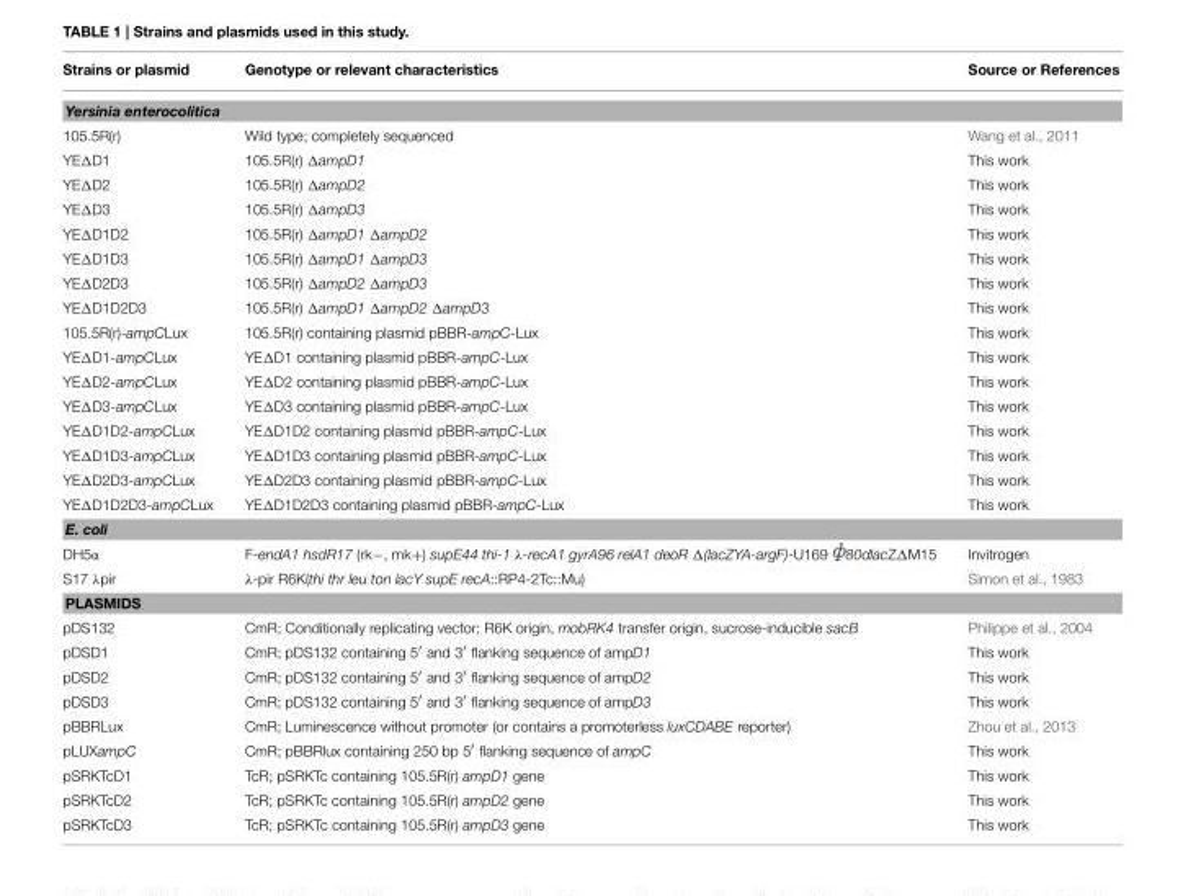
<table><thead><tr><td>Strains or plasmid</td><td>Genotype or relevant characteristics</td><td>Source or References</td></tr></thead><tbody><tr><td colspan="3">Yersinia enterocolitica</td></tr><tr><td>105.5R(r)</td><td>Wild type; completely sequenced</td><td>Wang et al., 2011</td></tr><tr><td>YEΔD1</td><td>105.5R(r) ΔampD1</td><td>This work</td></tr><tr><td>YEΔD2</td><td>105.5R(r) ΔampD2</td><td>This work</td></tr><tr><td>YEΔD3</td><td>105.5R(r) ΔampD3</td><td>This work</td></tr><tr><td>YEΔD1D2</td><td>105.5R(r) ΔampD1 ΔampD2</td><td>This work</td></tr><tr><td>YEΔD1D3</td><td>105.5R(r) ΔampD1 ΔampD3</td><td>This work</td></tr><tr><td>YEΔD2D3</td><td>105.5R(r) ΔampD2 ΔampD3</td><td>This work</td></tr><tr><td>YEΔD1D2D3</td><td>105.5R(r) ΔampD1 ΔampD2 ΔampD3</td><td>This work</td></tr><tr><td>105.5R(r)-ampCLux</td><td>105.5R(r) containing plasmid pBBR-ampC-Lux</td><td>This work</td></tr><tr><td>YEΔD1-ampCLux</td><td>YEΔD1 containing plasmid pBBR-ampC-Lux</td><td>This work</td></tr><tr><td>YEΔD2-ampCLux</td><td>YEΔD2 containing plasmid pBBR-ampC-Lux</td><td>This work</td></tr><tr><td>YEΔD3-ampCLux</td><td>YEΔD3 containing plasmid pBBR-ampC-Lux</td><td>This work</td></tr><tr><td>YEΔD1D2-ampCLux</td><td>YEΔD1D2 containing plasmid pBBR-ampC-Lux</td><td>This work</td></tr><tr><td>YEΔD1D3-ampCLux</td><td>YEΔD1D3 containing plasmid pBBR-ampC-Lux</td><td>This work</td></tr><tr><td>YEΔD2D3-ampCLux</td><td>YEΔD2D3 containing plasmid pBBR-ampC-Lux</td><td>This work</td></tr><tr><td>YEΔD1D2D3-ampCLux</td><td>YEΔD1D2D3 containing plasmid pBBR-ampC-Lux</td><td>This work</td></tr><tr><td colspan="3">E. coli</td></tr><tr><td>DH5α</td><td>F-endA1 hsdR17 (rk−, mk+) supE44 thi-1 λ-recA1 gyrA96 relA1 deoR Δ(lacZYA-argF)-U169 80dlacZΔM15</td><td>Invitrogen</td></tr><tr><td>S17 λpir</td><td>λ-pir R6K(thi thr leu ton lacY supE recA::RP4-2Tc::Mu)</td><td>Simon et al., 1983</td></tr><tr><td colspan="3">PLASMIDS</td></tr><tr><td>pDS132</td><td>CmR; Conditionally replicating vector; R6K origin, mobRK4 transfer origin, sucrose-inducible sacB</td><td>Philippe et al., 2004</td></tr><tr><td>pDSD1</td><td>CmR; pDS132 containing 5′ and 3′ flanking sequence of ampD1</td><td>This work</td></tr><tr><td>pDSD2</td><td>CmR; pDS132 containing 5′ and 3′ flanking sequence of ampD2</td><td>This work</td></tr><tr><td>pDSD3</td><td>CmR; pDS132 containing 5′ and 3′ flanking sequence of ampD3</td><td>This work</td></tr><tr><td>pBBRLux</td><td>CmR; Luminescence without promoter (or contains a promoterless luxCDABE reporter)</td><td>Zhou et al., 2013</td></tr><tr><td>pLUXampC</td><td>CmR; pBBRlux containing 250 bp 5′ flanking sequence of ampC</td><td>This work</td></tr><tr><td>pSRKTcD1</td><td>TcR; pSRKTc containing 105.5R(r) ampD1 gene</td><td>This work</td></tr><tr><td>pSRKTcD2</td><td>TcR; pSRKTc containing 105.5R(r) ampD2 gene</td><td>This work</td></tr><tr><td>pSRKTcD3</td><td>TcR; pSRKTc containing 105.5R(r) ampD3 gene</td><td>This work</td></tr></tbody></table>